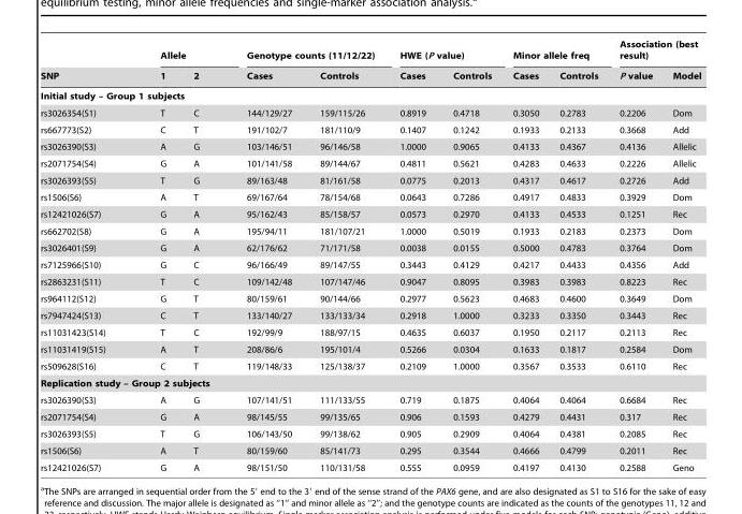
<table><thead><tr><td rowspan="2">SNP</td><td colspan="2">Allele</td><td colspan="2">Genotype counts (11/12/22)</td><td colspan="2">HWE (P value)</td><td colspan="2">Minor allele freq</td><td colspan="2">Association (best result)</td></tr><tr><td>1</td><td>2</td><td>Cases</td><td>Controls</td><td>Cases</td><td>Controls</td><td>Cases</td><td>Controls</td><td>P value</td><td>Model</td></tr></thead><tbody><tr><td colspan="11">Initial study – Group 1 subjects</td></tr><tr><td>rs3026354(S1)</td><td>T</td><td>C</td><td>144/129/27</td><td>159/115/26</td><td>0.8919</td><td>0.4718</td><td>0.3050</td><td>0.2783</td><td>0.2206</td><td>Dom</td></tr><tr><td>rs667773(S2)</td><td>C</td><td>T</td><td>191/102/7</td><td>181/110/9</td><td>0.1407</td><td>0.1242</td><td>0.1933</td><td>0.2133</td><td>0.3668</td><td>Add</td></tr><tr><td>rs3026390(S3)</td><td>A</td><td>G</td><td>103/146/51</td><td>96/146/58</td><td>1.0000</td><td>0.9065</td><td>0.4133</td><td>0.4367</td><td>0.4136</td><td>Allelic</td></tr><tr><td>rs2071754(S4)</td><td>G</td><td>A</td><td>101/141/58</td><td>89/144/67</td><td>0.4811</td><td>0.5621</td><td>0.4283</td><td>0.4633</td><td>0.2226</td><td>Allelic</td></tr><tr><td>rs3026393(S5)</td><td>T</td><td>G</td><td>89/163/48</td><td>81/161/58</td><td>0.0775</td><td>0.2013</td><td>0.4317</td><td>0.4617</td><td>0.2726</td><td>Add</td></tr><tr><td>rs1506(S6)</td><td>A</td><td>T</td><td>69/167/64</td><td>78/154/68</td><td>0.0643</td><td>0.7286</td><td>0.4917</td><td>0.4833</td><td>0.3929</td><td>Dom</td></tr><tr><td>rs12421026(S7)</td><td>G</td><td>A</td><td>95/162/43</td><td>85/158/57</td><td>0.0573</td><td>0.2970</td><td>0.4133</td><td>0.4533</td><td>0.1251</td><td>Rec</td></tr><tr><td>rs662702(S8)</td><td>G</td><td>A</td><td>195/94/11</td><td>181/107/21</td><td>1.0000</td><td>0.5019</td><td>0.1933</td><td>0.2183</td><td>0.2373</td><td>Dom</td></tr><tr><td>rs3026401(S9)</td><td>G</td><td>A</td><td>62/176/62</td><td>71/171/58</td><td>0.0038</td><td>0.0155</td><td>0.5000</td><td>0.4783</td><td>0.3764</td><td>Dom</td></tr><tr><td>rs7125966(S10)</td><td>G</td><td>C</td><td>96/166/49</td><td>89/147/55</td><td>0.3443</td><td>0.4129</td><td>0.4217</td><td>0.4433</td><td>0.4356</td><td>Add</td></tr><tr><td>rs2863231(S11)</td><td>T</td><td>C</td><td>109/142/48</td><td>107/147/46</td><td>0.9047</td><td>0.8095</td><td>0.3983</td><td>0.3983</td><td>0.8223</td><td>Rec</td></tr><tr><td>rs964112(S12)</td><td>G</td><td>T</td><td>80/159/61</td><td>90/144/66</td><td>0.2977</td><td>0.5623</td><td>0.4683</td><td>0.4600</td><td>0.3649</td><td>Dom</td></tr><tr><td>rs7947424(S13)</td><td>C</td><td>T</td><td>133/140/27</td><td>133/133/34</td><td>0.2918</td><td>1.0000</td><td>0.3233</td><td>0.3350</td><td>0.3443</td><td>Rec</td></tr><tr><td>rs11031423(S14)</td><td>T</td><td>C</td><td>192/99/9</td><td>188/97/15</td><td>0.4635</td><td>0.6037</td><td>0.1950</td><td>0.2117</td><td>0.2113</td><td>Rec</td></tr><tr><td>rs11031419(S15)</td><td>A</td><td>T</td><td>208/86/6</td><td>195/101/4</td><td>0.5266</td><td>0.0304</td><td>0.1633</td><td>0.1817</td><td>0.2584</td><td>Dom</td></tr><tr><td>rs509628(S16)</td><td>C</td><td>T</td><td>119/148/33</td><td>125/138/37</td><td>0.2109</td><td>1.0000</td><td>0.3567</td><td>0.3533</td><td>0.6110</td><td>Rec</td></tr><tr><td colspan="11">Replication study – Group 2 subjects</td></tr><tr><td>rs3026390(S3)</td><td>A</td><td>G</td><td>107/141/51</td><td>111/133/55</td><td>0.719</td><td>0.1875</td><td>0.4064</td><td>0.4064</td><td>0.6684</td><td>Rec</td></tr><tr><td>rs2071754(S4)</td><td>G</td><td>A</td><td>98/145/55</td><td>99/135/65</td><td>0.906</td><td>0.1593</td><td>0.4279</td><td>0.4431</td><td>0.317</td><td>Rec</td></tr><tr><td>rs3026393(S5)</td><td>T</td><td>G</td><td>106/143/50</td><td>99/138/62</td><td>0.905</td><td>0.2909</td><td>0.4064</td><td>0.4381</td><td>0.2085</td><td>Rec</td></tr><tr><td>rs1506(S6)</td><td>A</td><td>T</td><td>80/159/60</td><td>85/141/73</td><td>0.295</td><td>0.3544</td><td>0.4666</td><td>0.4799</td><td>0.2011</td><td>Rec</td></tr><tr><td>rs12421026(S7)</td><td>G</td><td>A</td><td>98/151/50</td><td>110/131/58</td><td>0.555</td><td>0.0959</td><td>0.4197</td><td>0.4130</td><td>0.2588</td><td>Geno</td></tr></tbody></table>